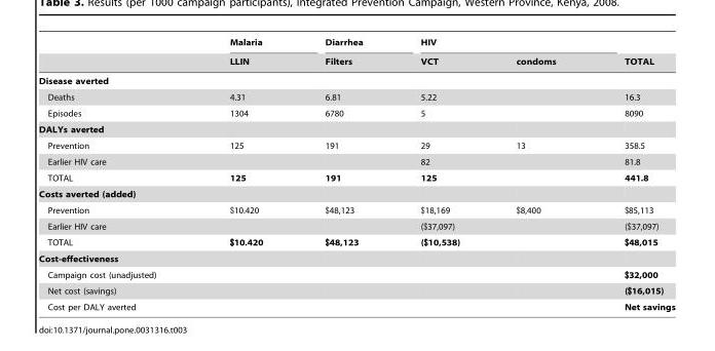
<table><thead><tr><td rowspan="2"></td><td rowspan="2">Malaria LLIN</td><td rowspan="2">Diarrhea Filters</td><td colspan="2">HIV</td><td rowspan="2">TOTAL</td></tr><tr><td>VCT</td><td>condoms</td></tr></thead><tbody><tr><td colspan="6">Disease averted</td></tr><tr><td>Deaths</td><td>4.31</td><td>6.81</td><td colspan="2">5.22</td><td>16.3</td></tr><tr><td>Episodes</td><td>1304</td><td>6780</td><td colspan="2">5</td><td>8090</td></tr><tr><td colspan="6">DALYs averted</td></tr><tr><td>Prevention</td><td>125</td><td>191</td><td>29</td><td>13</td><td>358.5</td></tr><tr><td>Earlier HIV care</td><td></td><td></td><td colspan="2">82</td><td>81.8</td></tr><tr><td>TOTAL</td><td>125</td><td>191</td><td colspan="2">125</td><td>441.8</td></tr><tr><td colspan="6">Costs averted (added)</td></tr><tr><td>Prevention</td><td>$10.420</td><td>$48,123</td><td>$18,169</td><td>$8,400</td><td>$85,113</td></tr><tr><td>Earlier HIV care</td><td></td><td></td><td colspan="2">($37,097)</td><td>($37,097)</td></tr><tr><td>TOTAL</td><td>$10.420</td><td>$48,123</td><td colspan="2">($10,538)</td><td>$48,015</td></tr><tr><td colspan="6">Cost-effectiveness</td></tr><tr><td>Campaign cost (unadjusted)</td><td></td><td></td><td></td><td></td><td>$32,000</td></tr><tr><td>Net cost (savings)</td><td></td><td></td><td></td><td></td><td>($16,015)</td></tr><tr><td>Cost per DALY averted</td><td></td><td></td><td></td><td></td><td>Net savings</td></tr></tbody></table>